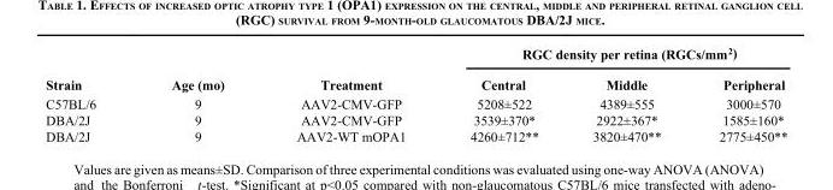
<table><tbody><tr><td rowspan="2">Strain</td><td rowspan="2">Age (mo)</td><td rowspan="2">Treatment</td><td colspan="3">RGC density per retina (RGCs/mm<sup>2</sup>)</td></tr><tr><td>Central</td><td>Middle</td><td>Peripheral</td></tr><tr><td>C57BL/6</td><td>9</td><td>AAV2-CMV-GFP</td><td>5208±522</td><td>4389±555</td><td>3000±570</td></tr><tr><td>DBA/2J</td><td>9</td><td>AAV2-CMV-GFP</td><td>3539±370*</td><td>2922±367*</td><td>1585±160*</td></tr><tr><td>DBA/2J</td><td>9</td><td>AAV2-WT mOPA1</td><td>4260±712**</td><td>3820±470**</td><td>2775±450**</td></tr></tbody></table>